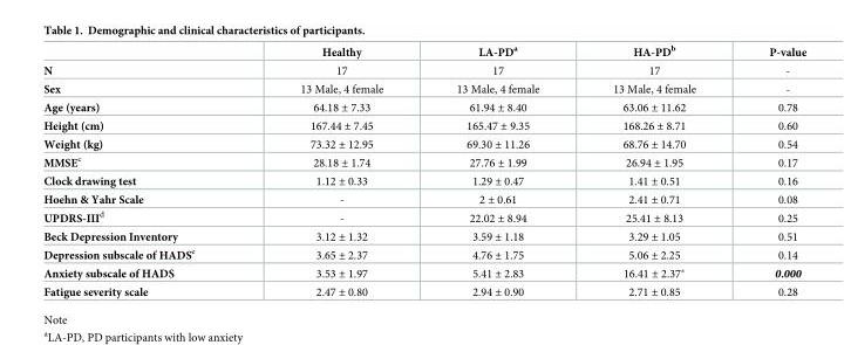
<table><thead><tr><td></td><td>Healthy</td><td>LA-PD<sup>a</sup></td><td>HA-PD<sup>b</sup></td><td>P-value</td></tr></thead><tbody><tr><td>N</td><td>17</td><td>17</td><td>17</td><td>-</td></tr><tr><td>Sex</td><td>13 Male, 4 female</td><td>13 Male, 4 female</td><td>13 Male, 4 female</td><td>-</td></tr><tr><td>Age (years)</td><td>64.18 ± 7.33</td><td>61.94 ± 8.40</td><td>63.06 ± 11.62</td><td>0.78</td></tr><tr><td>Height (cm)</td><td>167.44 ± 7.45</td><td>165.47 ± 9.35</td><td>168.26 ± 8.71</td><td>0.60</td></tr><tr><td>Weight (kg)</td><td>73.32 ± 12.95</td><td>69.30 ± 11.26</td><td>68.76 ± 14.70</td><td>0.54</td></tr><tr><td>MMSE<sup>c</sup></td><td>28.18 ± 1.74</td><td>27.76 ± 1.99</td><td>26.94 ± 1.95</td><td>0.17</td></tr><tr><td>Clock drawing test</td><td>1.12 ± 0.33</td><td>1.29 ± 0.47</td><td>1.41 ± 0.51</td><td>0.16</td></tr><tr><td>Hoehn &amp; Yahr Scale</td><td>-</td><td>2 ± 0.61</td><td>2.41 ± 0.71</td><td>0.08</td></tr><tr><td>UPDRS-III<sup>d</sup></td><td>-</td><td>22.02 ± 8.94</td><td>25.41 ± 8.13</td><td>0.25</td></tr><tr><td>Beck Depression Inventory</td><td>3.12 ± 1.32</td><td>3.59 ± 1.18</td><td>3.29 ± 1.05</td><td>0.51</td></tr><tr><td>Depression subscale of HADS<sup>e</sup></td><td>3.65 ± 2.37</td><td>4.76 ± 1.75</td><td>5.06 ± 2.25</td><td>0.14</td></tr><tr><td>Anxiety subscale of HADS</td><td>3.53 ± 1.97</td><td>5.41 ± 2.83</td><td>16.41 ± 2.37*</td><td>0.000</td></tr><tr><td>Fatigue severity scale</td><td>2.47 ± 0.80</td><td>2.94 ± 0.90</td><td>2.71 ± 0.85</td><td>0.28</td></tr></tbody></table>